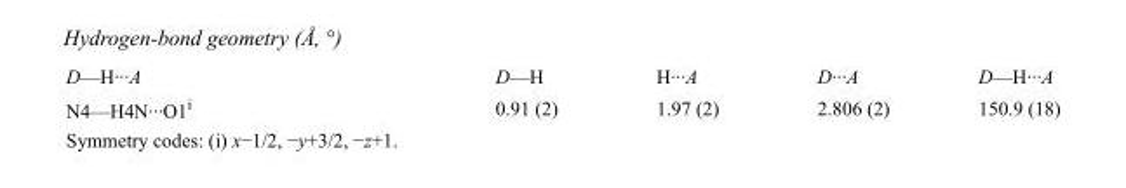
<table><tbody><tr><td>D—H···A</td><td>D—H</td><td>H···A</td><td>D···A</td><td>D—H···A</td></tr><tr><td>N4—H4N···O1<sup>i</sup></td><td>0.91 (2)</td><td>1.97 (2)</td><td>2.806 (2)</td><td>150.9 (18)</td></tr></tbody></table>